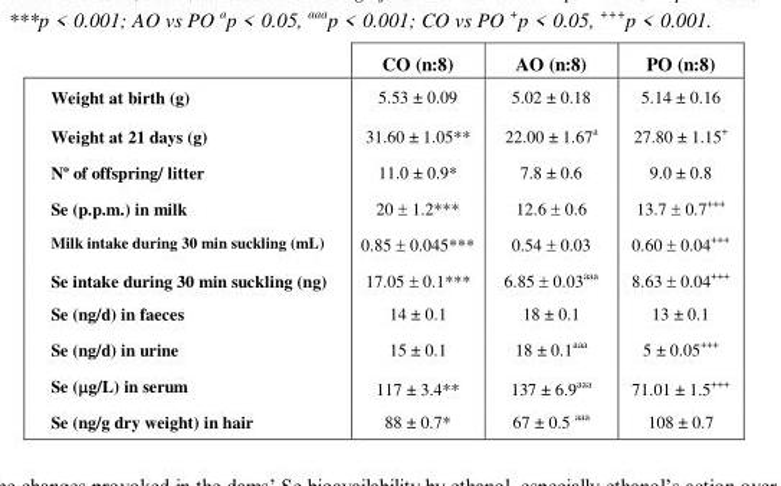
<table><thead><tr><td></td><td>CO (n:8)</td><td>AO (n:8)</td><td>PO (n:8)</td></tr></thead><tbody><tr><td>Weight at birth (g)</td><td>5.53 ± 0.09</td><td>5.02 ± 0.18</td><td>5.14 ± 0.16</td></tr><tr><td>Weight at 21 days (g)</td><td>31.60 ± 1.05**</td><td>22.00 ± 1.67<sup>a</sup></td><td>27.80 ± 1.15<sup>+</sup></td></tr><tr><td>Nº of offspring/ litter</td><td>11.0 ± 0.9*</td><td>7.8 ± 0.6</td><td>9.0 ± 0.8</td></tr><tr><td>Se (p.p.m.) in milk</td><td>20 ± 1.2***</td><td>12.6 ± 0.6</td><td>13.7 ± 0.7<sup>+++</sup></td></tr><tr><td>Milk intake during 30 min suckling (mL)</td><td>0.85 ± 0.045***</td><td>0.54 ± 0.03</td><td>0.60 ± 0.04<sup>+++</sup></td></tr><tr><td>Se intake during 30 min suckling (ng)</td><td>17.05 ± 0.1***</td><td>6.85 ± 0.03aaa</td><td>8.63 ± 0.04<sup>+++</sup></td></tr><tr><td>Se (ng/d) in faeces</td><td>14 ± 0.1</td><td>18 ± 0.1</td><td>13 ± 0.1</td></tr><tr><td>Se (ng/d) in urine</td><td>15 ± 0.1</td><td>18 ± 0.1aaa</td><td>5 ± 0.05<sup>+++</sup></td></tr><tr><td>Se (μg/L) in serum</td><td>117 ± 3.4**</td><td>137 ± 6.9aaa</td><td>71.01 ± 1.5<sup>+++</sup></td></tr><tr><td>Se (ng/g dry weight) in hair</td><td>88 ± 0.7*</td><td>67 ± 0.5 aaa</td><td>108 ± 0.7</td></tr></tbody></table>